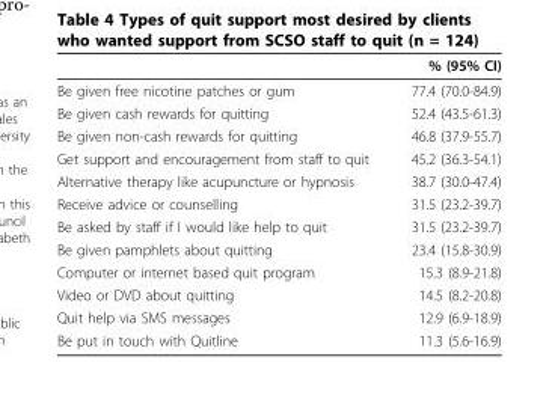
<table><thead><tr><td></td><td>% (95% CI)</td></tr></thead><tbody><tr><td>Be given free nicotine patches or gum</td><td>77.4 (70.0-84.9)</td></tr><tr><td>Be given cash rewards for quitting</td><td>52.4 (43.5-61.3)</td></tr><tr><td>Be given non-cash rewards for quitting</td><td>46.8 (37.9-55.7)</td></tr><tr><td>Get support and encouragement from staff to quit</td><td>45.2 (36.3-54.1)</td></tr><tr><td>Alternative therapy like acupuncture or hypnosis</td><td>38.7 (30.0-47.4)</td></tr><tr><td>Receive advice or counselling</td><td>31.5 (23.2-39.7)</td></tr><tr><td>Be asked by staff if I would like help to quit</td><td>31.5 (23.2-39.7)</td></tr><tr><td>Be given pamphlets about quitting</td><td>23.4 (15.8-30.9)</td></tr><tr><td>Computer or internet based quit program</td><td>15.3 (8.9-21.8)</td></tr><tr><td>Video or DVD about quitting</td><td>14.5 (8.2-20.8)</td></tr><tr><td>Quit help via SMS messages</td><td>12.9 (6.9-18.9)</td></tr><tr><td>Be put in touch with Quitline</td><td>11.3 (5.6-16.9)</td></tr></tbody></table>